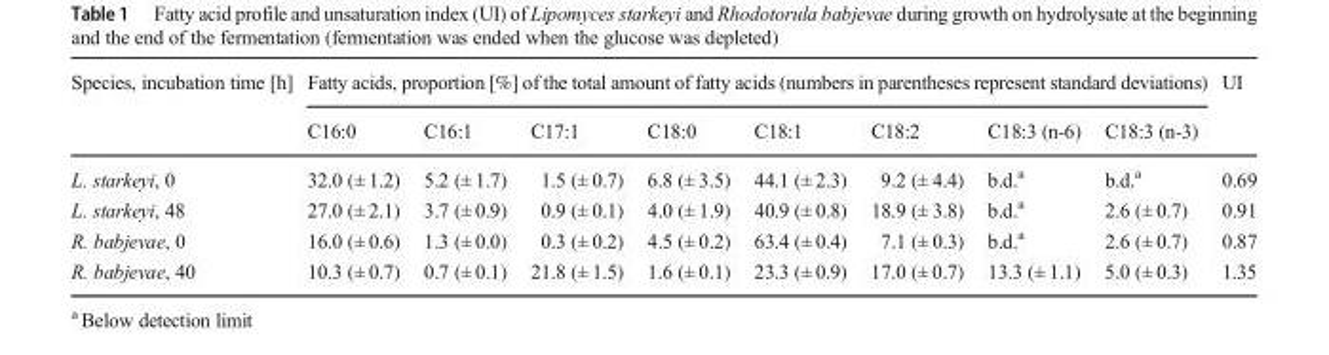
<table><thead><tr><td rowspan="2">Species, incubation time [h]</td><td colspan="8">Fatty acids, proportion [%] of the total amount of fatty acids (numbers in parentheses represent standard deviations)</td><td rowspan="2">UI</td></tr><tr><td>C16:0</td><td>C16:1</td><td>C17:1</td><td>C18:0</td><td>C18:1</td><td>C18:2</td><td>C18:3 (n-6)</td><td>C18:3 (n-3)</td></tr></thead><tbody><tr><td>L. starkeyi, 0</td><td>32.0 (± 1.2)</td><td>5.2 (± 1.7)</td><td>1.5 (± 0.7)</td><td>6.8 (± 3.5)</td><td>44.1 (± 2.3)</td><td>9.2 (± 4.4)</td><td>b.d.<sup>a</sup></td><td>b.d.<sup>a</sup></td><td>0.69</td></tr><tr><td>L. starkeyi, 48</td><td>27.0 (± 2.1)</td><td>3.7 (± 0.9)</td><td>0.9 (± 0.1)</td><td>4.0 (± 1.9)</td><td>40.9 (± 0.8)</td><td>18.9 (± 3.8)</td><td>b.d.<sup>a</sup></td><td>2.6 (± 0.7)</td><td>0.91</td></tr><tr><td>R. babjevae, 0</td><td>16.0 (± 0.6)</td><td>1.3 (± 0.0)</td><td>0.3 (± 0.2)</td><td>4.5 (± 0.2)</td><td>63.4 (± 0.4)</td><td>7.1 (± 0.3)</td><td>b.d.<sup>a</sup></td><td>2.6 (± 0.7)</td><td>0.87</td></tr><tr><td>R. babjevae, 40</td><td>10.3 (± 0.7)</td><td>0.7 (± 0.1)</td><td>21.8 (± 1.5)</td><td>1.6 (± 0.1)</td><td>23.3 (± 0.9)</td><td>17.0 (± 0.7)</td><td>13.3 (± 1.1)</td><td>5.0 (± 0.3)</td><td>1.35</td></tr></tbody></table>